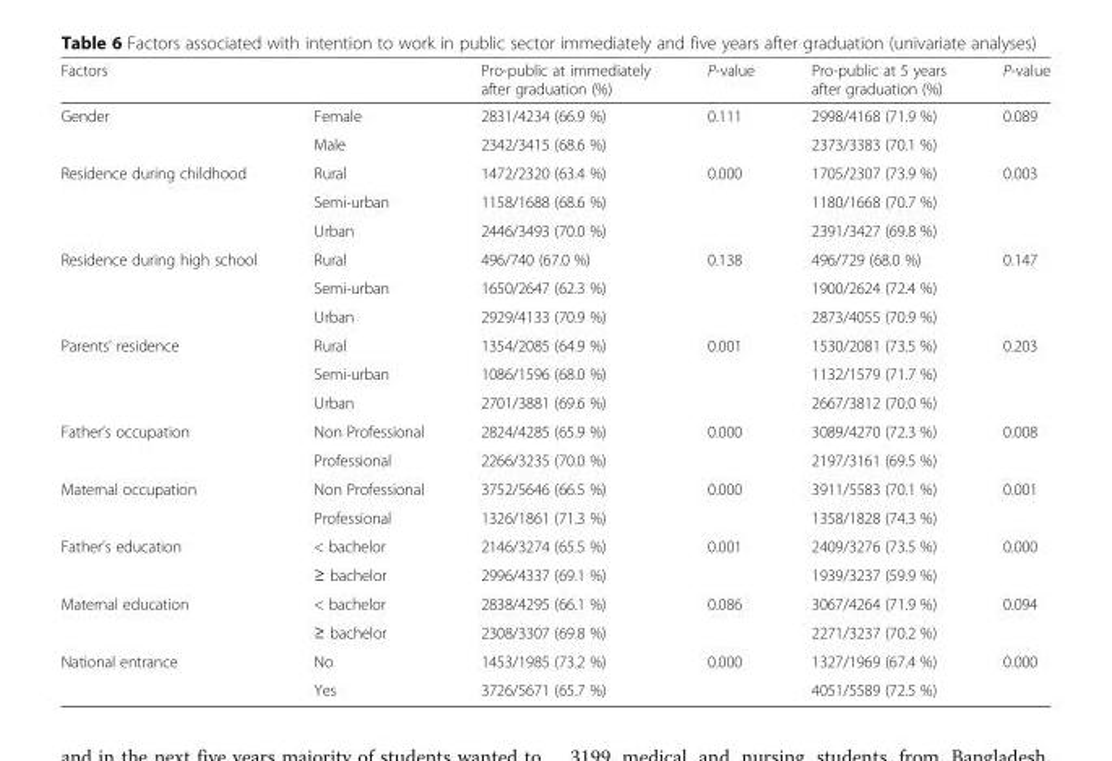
<table><thead><tr><td>Factors</td><td></td><td>Pro-public at immediately after graduation (%)</td><td>P-value</td><td>Pro-public at 5 years after graduation (%)</td><td>P-value</td></tr></thead><tbody><tr><td rowspan="2">Gender</td><td>Female</td><td>2831/4234 (66.9 %)</td><td rowspan="2">0.111</td><td>2998/4168 (71.9 %)</td><td rowspan="2">0.089</td></tr><tr><td>Male</td><td>2342/3415 (68.6 %)</td><td>2373/3383 (70.1 %)</td></tr><tr><td rowspan="3">Residence during childhood</td><td>Rural</td><td>1472/2320 (63.4 %)</td><td rowspan="3">0.000</td><td>1705/2307 (73.9 %)</td><td rowspan="3">0.003</td></tr><tr><td>Semi-urban</td><td>1158/1688 (68.6 %)</td><td>1180/1668 (70.7 %)</td></tr><tr><td>Urban</td><td>2446/3493 (70.0 %)</td><td>2391/3427 (69.8 %)</td></tr><tr><td rowspan="3">Residence during high school</td><td>Rural</td><td>496/740 (67.0 %)</td><td rowspan="3">0.138</td><td>496/729 (68.0 %)</td><td rowspan="3">0.147</td></tr><tr><td>Semi-urban</td><td>1650/2647 (62.3 %)</td><td>1900/2624 (72.4 %)</td></tr><tr><td>Urban</td><td>2929/4133 (70.9 %)</td><td>2873/4055 (70.9 %)</td></tr><tr><td rowspan="3">Parents’ residence</td><td>Rural</td><td>1354/2085 (64.9 %)</td><td rowspan="3">0.001</td><td>1530/2081 (73.5 %)</td><td rowspan="3">0.203</td></tr><tr><td>Semi-urban</td><td>1086/1596 (68.0 %)</td><td>1132/1579 (71.7 %)</td></tr><tr><td>Urban</td><td>2701/3881 (69.6 %)</td><td>2667/3812 (70.0 %)</td></tr><tr><td rowspan="2">Father’s occupation</td><td>Non Professional</td><td>2824/4285 (65.9 %)</td><td rowspan="2">0.000</td><td>3089/4270 (72.3 %)</td><td rowspan="2">0.008</td></tr><tr><td>Professional</td><td>2266/3235 (70.0 %)</td><td>2197/3161 (69.5 %)</td></tr><tr><td rowspan="2">Maternal occupation</td><td>Non Professional</td><td>3752/5646 (66.5 %)</td><td rowspan="2">0.000</td><td>3911/5583 (70.1 %)</td><td rowspan="2">0.001</td></tr><tr><td>Professional</td><td>1326/1861 (71.3 %)</td><td>1358/1828 (74.3 %)</td></tr><tr><td rowspan="2">Father’s education</td><td>&lt; bachelor</td><td>2146/3274 (65.5 %)</td><td rowspan="2">0.001</td><td>2409/3276 (73.5 %)</td><td rowspan="2">0.000</td></tr><tr><td>≥ bachelor</td><td>2996/4337 (69.1 %)</td><td>1939/3237 (59.9 %)</td></tr><tr><td rowspan="2">Maternal education</td><td>&lt; bachelor</td><td>2838/4295 (66.1 %)</td><td rowspan="2">0.086</td><td>3067/4264 (71.9 %)</td><td rowspan="2">0.094</td></tr><tr><td>≥ bachelor</td><td>2308/3307 (69.8 %)</td><td>2271/3237 (70.2 %)</td></tr><tr><td rowspan="2">National entrance</td><td>No</td><td>1453/1985 (73.2 %)</td><td rowspan="2">0.000</td><td>1327/1969 (67.4 %)</td><td rowspan="2">0.000</td></tr><tr><td>Yes</td><td>3726/5671 (65.7 %)</td><td>4051/5589 (72.5 %)</td></tr></tbody></table>